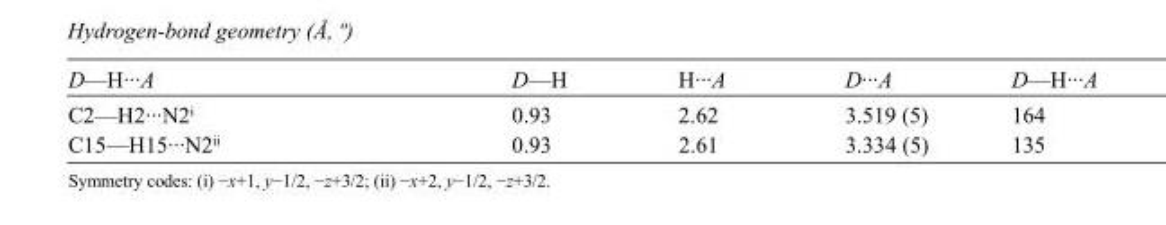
<table><tbody><tr><td>D—H···A</td><td>D—H</td><td>H···A</td><td>D···A</td><td>D—H···A</td></tr><tr><td>C2—H2···N2<sup>i</sup></td><td>0.93</td><td>2.62</td><td>3.519 (5)</td><td>164</td></tr><tr><td>C15—H15···N2<sup>ii</sup></td><td>0.93</td><td>2.61</td><td>3.334 (5)</td><td>135</td></tr></tbody></table>